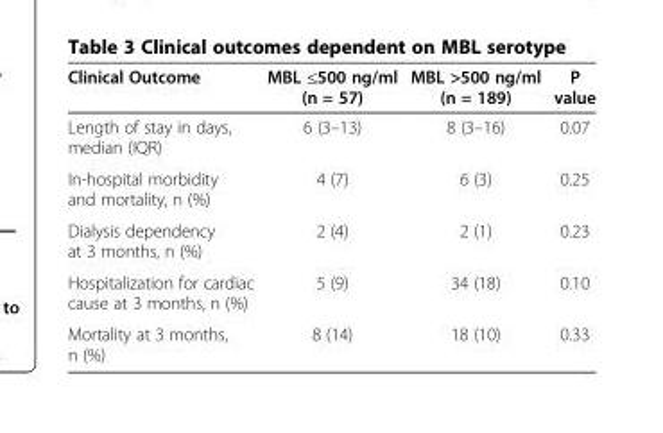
<table><thead><tr><td>Clinical Outcome</td><td>MBL ≤500 ng/ml (n = 57)</td><td>MBL &gt;500 ng/ml (n = 189)</td><td>P value</td></tr></thead><tbody><tr><td>Length of stay in days, median (IQR)</td><td>6 (3–13)</td><td>8 (3–16)</td><td>0.07</td></tr><tr><td>In-hospital morbidity and mortality, n (%)</td><td>4 (7)</td><td>6 (3)</td><td>0.25</td></tr><tr><td>Dialysis dependency at 3 months, n (%)</td><td>2 (4)</td><td>2 (1)</td><td>0.23</td></tr><tr><td>Hospitalization for cardiac cause at 3 months, n (%)</td><td>5 (9)</td><td>34 (18)</td><td>0.10</td></tr><tr><td>Mortality at 3 months, n (%)</td><td>8 (14)</td><td>18 (10)</td><td>0.33</td></tr></tbody></table>